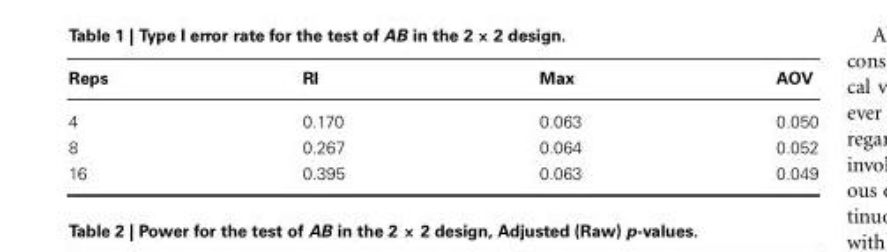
<table><thead><tr><td>Reps</td><td>RI</td><td>Max</td><td>AOV</td></tr></thead><tbody><tr><td>4</td><td>0.170</td><td>0.063</td><td>0.050</td></tr><tr><td>8</td><td>0.267</td><td>0.064</td><td>0.052</td></tr><tr><td>16</td><td>0.395</td><td>0.063</td><td>0.049</td></tr></tbody></table>